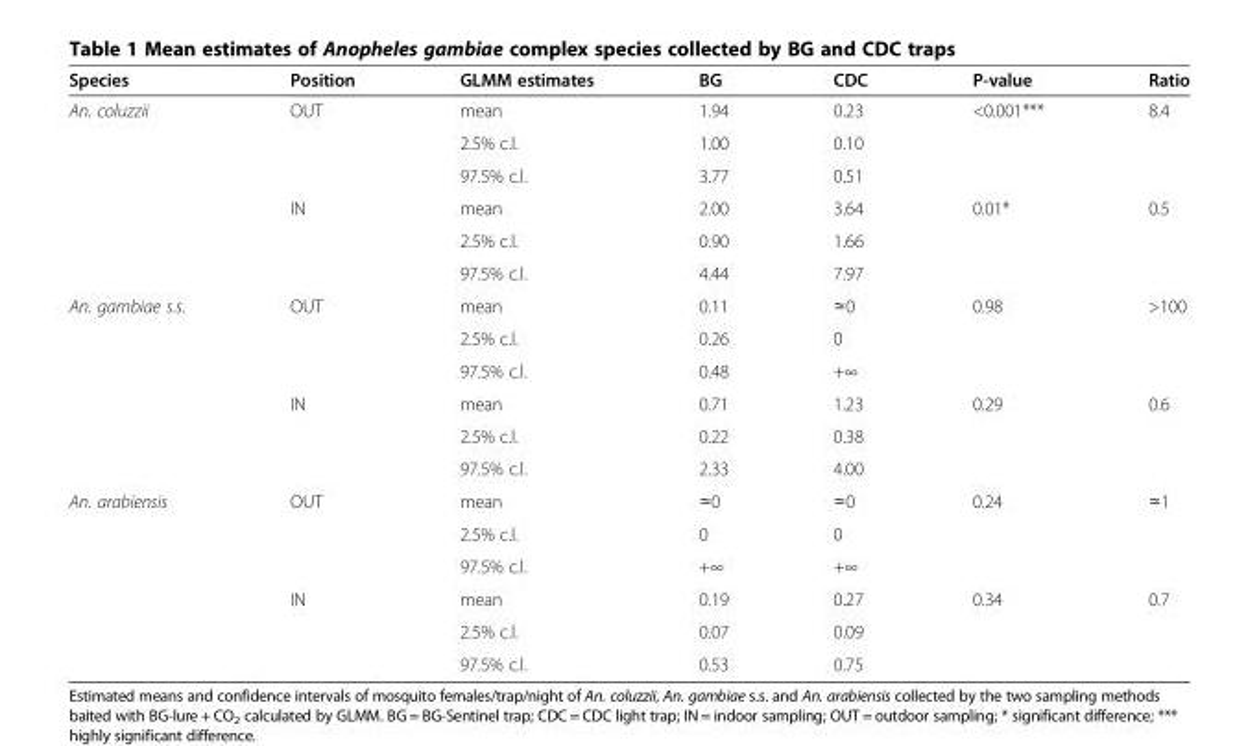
<table><thead><tr><td>Species</td><td>Position</td><td>GLMM estimates</td><td>BG</td><td>CDC</td><td>P-value</td><td>Ratio</td></tr></thead><tbody><tr><td rowspan="6">An. coluzzii</td><td>OUT</td><td>mean</td><td>1.94</td><td>0.23</td><td>&lt;0.001***</td><td>8.4</td></tr><tr><td></td><td>2.5% c.l.</td><td>1.00</td><td>0.10</td><td></td><td></td></tr><tr><td></td><td>97.5% c.l.</td><td>3.77</td><td>0.51</td><td></td><td></td></tr><tr><td>IN</td><td>mean</td><td>2.00</td><td>3.64</td><td>0.01*</td><td>0.5</td></tr><tr><td></td><td>2.5% c.l.</td><td>0.90</td><td>1.66</td><td></td><td></td></tr><tr><td></td><td>97.5% c.l.</td><td>4.44</td><td>7.97</td><td></td><td></td></tr><tr><td rowspan="6">An. gambiae s.s.</td><td>OUT</td><td>mean</td><td>0.11</td><td>≃0</td><td>0.98</td><td>&gt;100</td></tr><tr><td></td><td>2.5% c.l.</td><td>0.26</td><td>0</td><td></td><td></td></tr><tr><td></td><td>97.5% c.l.</td><td>0.48</td><td>+∞</td><td></td><td></td></tr><tr><td>IN</td><td>mean</td><td>0.71</td><td>1.23</td><td>0.29</td><td>0.6</td></tr><tr><td></td><td>2.5% c.l.</td><td>0.22</td><td>0.38</td><td></td><td></td></tr><tr><td></td><td>97.5% c.l.</td><td>2.33</td><td>4.00</td><td></td><td></td></tr><tr><td rowspan="6">An. arabiensis</td><td>OUT</td><td>mean</td><td>≃0</td><td>≃0</td><td>0.24</td><td>≃1</td></tr><tr><td></td><td>2.5% c.l.</td><td>0</td><td>0</td><td></td><td></td></tr><tr><td></td><td>97.5% c.l.</td><td>+∞</td><td>+∞</td><td></td><td></td></tr><tr><td>IN</td><td>mean</td><td>0.19</td><td>0.27</td><td>0.34</td><td>0.7</td></tr><tr><td></td><td>2.5% c.l.</td><td>0.07</td><td>0.09</td><td></td><td></td></tr><tr><td></td><td>97.5% c.l.</td><td>0.53</td><td>0.75</td><td></td><td></td></tr></tbody></table>